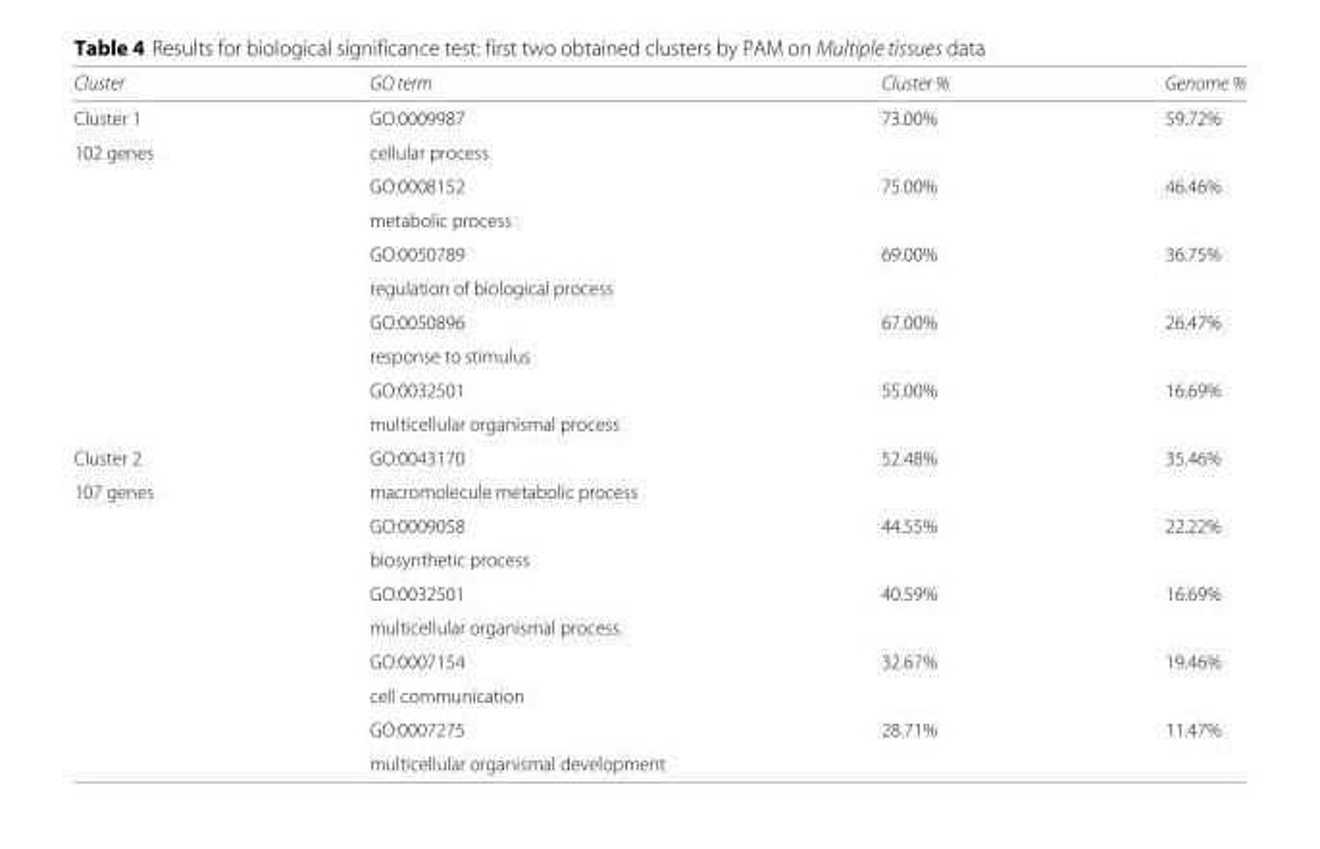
<table><thead><tr><td>Cluster</td><td>GO term</td><td>Cluster %</td><td>Genome %</td></tr></thead><tbody><tr><td>Cluster 1</td><td>GO:0009987</td><td>73.00%</td><td>59.72%</td></tr><tr><td rowspan="9">102 genes</td><td>cellular process</td><td></td><td></td></tr><tr><td>GO:0008152</td><td>75.00%</td><td>46.46%</td></tr><tr><td>metabolic process</td><td></td><td></td></tr><tr><td>GO:0050789</td><td>69.00%</td><td>36.75%</td></tr><tr><td>regulation of biological process</td><td></td><td></td></tr><tr><td>GO:0050896</td><td>67.00%</td><td>26.47%</td></tr><tr><td>response to stimulus</td><td></td><td></td></tr><tr><td>GO:0032501</td><td>55.00%</td><td>16.69%</td></tr><tr><td>multicellular organismal process</td><td></td><td></td></tr><tr><td>Cluster 2</td><td>GO:0043170</td><td>52.48%</td><td>35.46%</td></tr><tr><td rowspan="9">107 genes</td><td>macromolecule metabolic process</td><td></td><td></td></tr><tr><td>GO:0009058</td><td>44.55%</td><td>22.22%</td></tr><tr><td>biosynthetic process</td><td></td><td></td></tr><tr><td>GO:0032501</td><td>40.59%</td><td>16.69%</td></tr><tr><td>multicellular organismal process</td><td></td><td></td></tr><tr><td>GO:0007154</td><td>32.67%</td><td>19.46%</td></tr><tr><td>cell communication</td><td></td><td></td></tr><tr><td>GO:0007275</td><td>28.71%</td><td>11.47%</td></tr><tr><td>multicellular organismal development</td><td></td><td></td></tr></tbody></table>